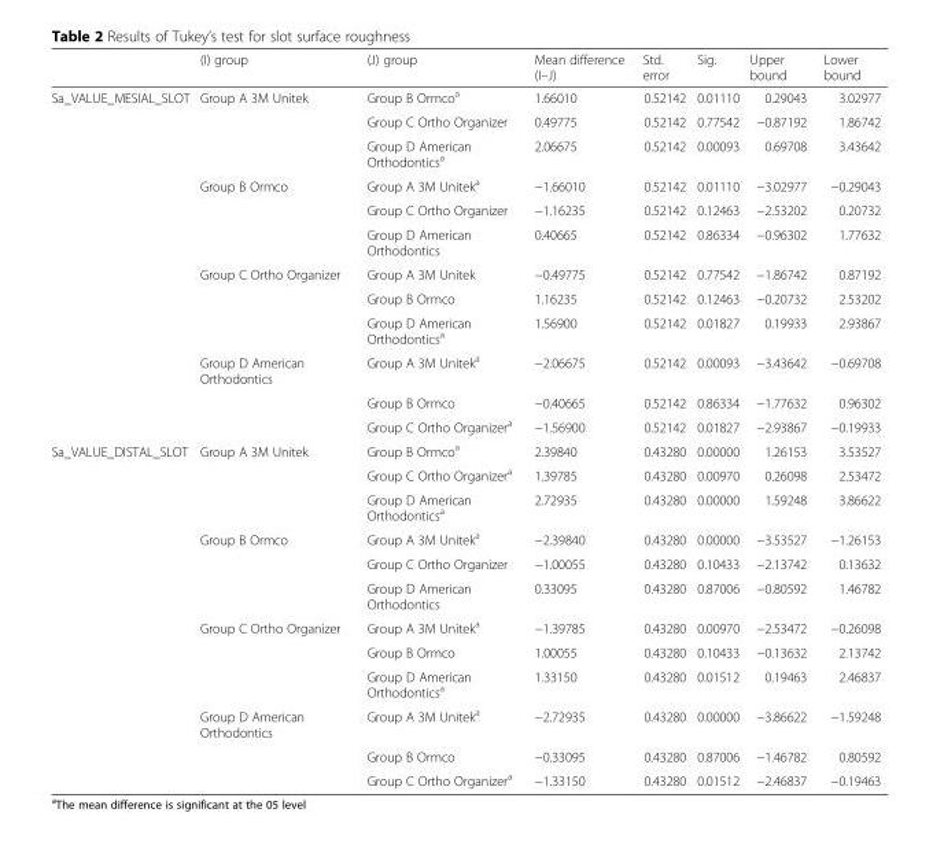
<table><thead><tr><td></td><td>(I) group</td><td>(J) group</td><td>Mean difference (I–J)</td><td>Std. error</td><td>Sig.</td><td>Upper bound</td><td>Lower bound</td></tr></thead><tbody><tr><td rowspan="12">Sa_VALUE_MESIAL_SLOT</td><td>Group A 3M Unitek</td><td>Group B Ormco<sup>a</sup></td><td>1.66010</td><td>0.52142</td><td>0.01110</td><td>0.29043</td><td>3.02977</td></tr><tr><td></td><td>Group C Ortho Organizer</td><td>0.49775</td><td>0.52142</td><td>0.77542</td><td>−0.87192</td><td>1.86742</td></tr><tr><td></td><td>Group D American Orthodontics<sup>a</sup></td><td>2.06675</td><td>0.52142</td><td>0.00093</td><td>0.69708</td><td>3.43642</td></tr><tr><td>Group B Ormco</td><td>Group A 3M Unitek<sup>a</sup></td><td>−1.66010</td><td>0.52142</td><td>0.01110</td><td>−3.02977</td><td>−0.29043</td></tr><tr><td></td><td>Group C Ortho Organizer</td><td>−1.16235</td><td>0.52142</td><td>0.12463</td><td>−2.53202</td><td>0.20732</td></tr><tr><td></td><td>Group D American Orthodontics</td><td>0.40665</td><td>0.52142</td><td>0.86334</td><td>−0.96302</td><td>1.77632</td></tr><tr><td>Group C Ortho Organizer</td><td>Group A 3M Unitek</td><td>−0.49775</td><td>0.52142</td><td>0.77542</td><td>−1.86742</td><td>0.87192</td></tr><tr><td></td><td>Group B Ormco</td><td>1.16235</td><td>0.52142</td><td>0.12463</td><td>−0.20732</td><td>2.53202</td></tr><tr><td></td><td>Group D American Orthodontics<sup>a</sup></td><td>1.56900</td><td>0.52142</td><td>0.01827</td><td>0.19933</td><td>2.93867</td></tr><tr><td>Group D American Orthodontics</td><td>Group A 3M Unitek<sup>a</sup></td><td>−2.06675</td><td>0.52142</td><td>0.00093</td><td>−3.43642</td><td>−0.69708</td></tr><tr><td></td><td>Group B Ormco</td><td>−0.40665</td><td>0.52142</td><td>0.86334</td><td>−1.77632</td><td>0.96302</td></tr><tr><td></td><td>Group C Ortho Organizer<sup>a</sup></td><td>−1.56900</td><td>0.52142</td><td>0.01827</td><td>−2.93867</td><td>−0.19933</td></tr><tr><td rowspan="12">Sa_VALUE_DISTAL_SLOT</td><td>Group A 3M Unitek</td><td>Group B Ormco<sup>a</sup></td><td>2.39840</td><td>0.43280</td><td>0.00000</td><td>1.26153</td><td>3.53527</td></tr><tr><td></td><td>Group C Ortho Organizer<sup>a</sup></td><td>1.39785</td><td>0.43280</td><td>0.00970</td><td>0.26098</td><td>2.53472</td></tr><tr><td></td><td>Group D American Orthodontics<sup>a</sup></td><td>2.72935</td><td>0.43280</td><td>0.00000</td><td>1.59248</td><td>3.86622</td></tr><tr><td>Group B Ormco</td><td>Group A 3M Unitek<sup>a</sup></td><td>−2.39840</td><td>0.43280</td><td>0.00000</td><td>−3.53527</td><td>−1.26153</td></tr><tr><td></td><td>Group C Ortho Organizer</td><td>−1.00055</td><td>0.43280</td><td>0.10433</td><td>−2.13742</td><td>0.13632</td></tr><tr><td></td><td>Group D American Orthodontics</td><td>0.33095</td><td>0.43280</td><td>0.87006</td><td>−0.80592</td><td>1.46782</td></tr><tr><td>Group C Ortho Organizer</td><td>Group A 3M Unitek<sup>a</sup></td><td>−1.39785</td><td>0.43280</td><td>0.00970</td><td>−2.53472</td><td>−0.26098</td></tr><tr><td></td><td>Group B Ormco</td><td>1.00055</td><td>0.43280</td><td>0.10433</td><td>−0.13632</td><td>2.13742</td></tr><tr><td></td><td>Group D American Orthodontics<sup>a</sup></td><td>1.33150</td><td>0.43280</td><td>0.01512</td><td>0.19463</td><td>2.46837</td></tr><tr><td>Group D American Orthodontics</td><td>Group A 3M Unitek<sup>a</sup></td><td>−2.72935</td><td>0.43280</td><td>0.00000</td><td>−3.86622</td><td>−1.59248</td></tr><tr><td></td><td>Group B Ormco</td><td>−0.33095</td><td>0.43280</td><td>0.87006</td><td>−1.46782</td><td>0.80592</td></tr><tr><td></td><td>Group C Ortho Organizer<sup>a</sup></td><td>−1.33150</td><td>0.43280</td><td>0.01512</td><td>−2.46837</td><td>−0.19463</td></tr></tbody></table>